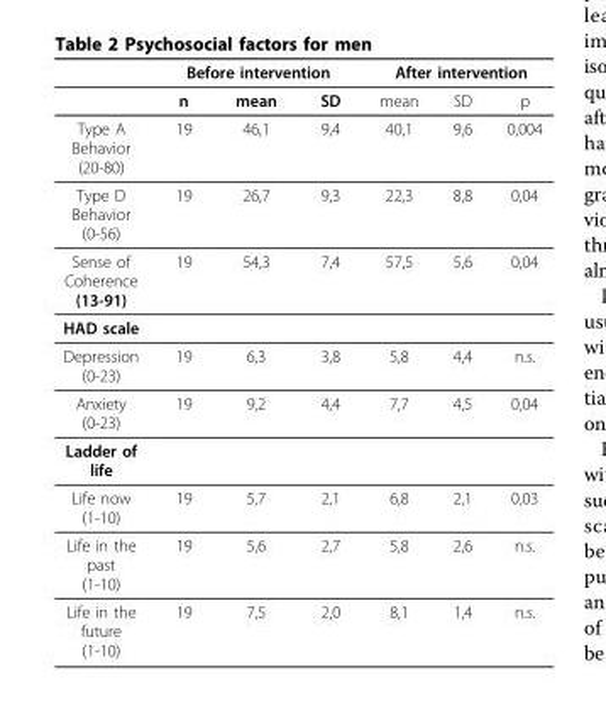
<table><thead><tr><td rowspan="2"></td><td colspan="3">Before intervention</td><td colspan="3">After intervention</td></tr><tr><td>n</td><td>mean</td><td>SD</td><td>mean</td><td>SD</td><td>p</td></tr></thead><tbody><tr><td>Type A Behavior (20-80)</td><td>19</td><td>46,1</td><td>9,4</td><td>40,1</td><td>9,6</td><td>0,004</td></tr><tr><td>Type D Behavior (0-56)</td><td>19</td><td>26,7</td><td>9,3</td><td>22,3</td><td>8,8</td><td>0,04</td></tr><tr><td>Sense of Coherence (13-91)</td><td>19</td><td>54,3</td><td>7,4</td><td>57,5</td><td>5,6</td><td>0,04</td></tr><tr><td colspan="7">HAD scale</td></tr><tr><td>Depression (0-23)</td><td>19</td><td>6,3</td><td>3,8</td><td>5,8</td><td>4,4</td><td>n.s.</td></tr><tr><td>Anxiety (0-23)</td><td>19</td><td>9,2</td><td>4,4</td><td>7,7</td><td>4,5</td><td>0,04</td></tr><tr><td colspan="7">Ladder of life</td></tr><tr><td>Life now (1-10)</td><td>19</td><td>5,7</td><td>2,1</td><td>6,8</td><td>2,1</td><td>0,03</td></tr><tr><td>Life in the past (1-10)</td><td>19</td><td>5,6</td><td>2,7</td><td>5,8</td><td>2,6</td><td>n.s.</td></tr><tr><td>Life in the future (1-10)</td><td>19</td><td>7,5</td><td>2,0</td><td>8,1</td><td>1,4</td><td>n.s.</td></tr></tbody></table>